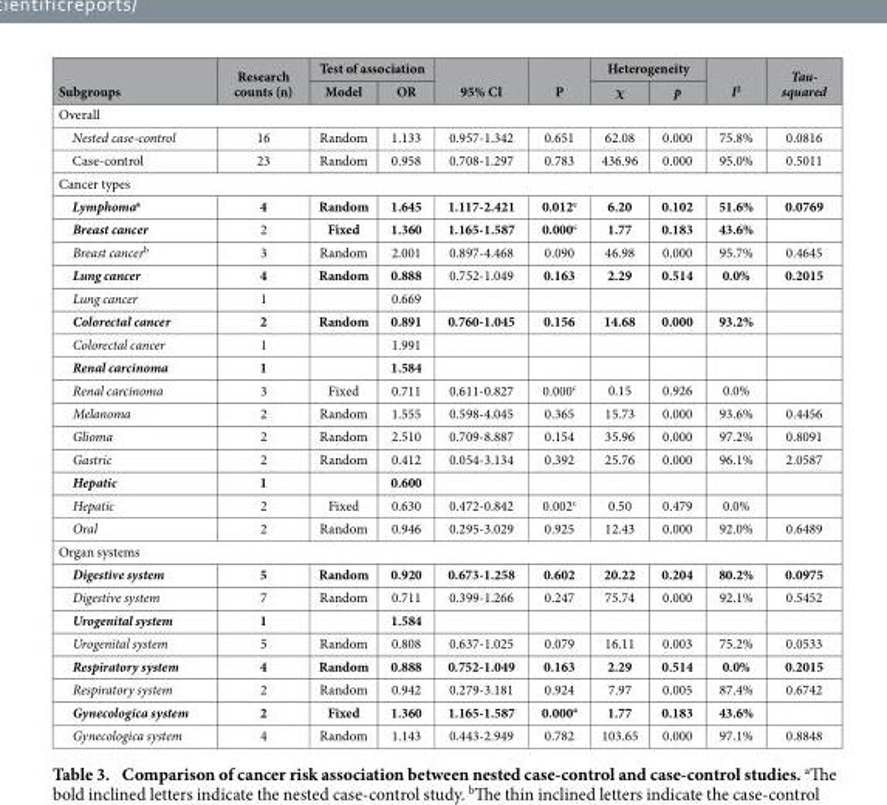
<table><thead><tr><td rowspan="2">Subgroups</td><td rowspan="2">Research counts (n)</td><td colspan="2">Test of association</td><td rowspan="2">95% CI</td><td rowspan="2">P</td><td colspan="2">Heterogeneity</td><td rowspan="2">I<sup>2</sup></td><td rowspan="2">Tau- squared</td></tr><tr><td>Model</td><td>OR</td><td>χ</td><td>p</td></tr></thead><tbody><tr><td colspan="10">Overall</td></tr><tr><td>Nested case-control</td><td>16</td><td>Random</td><td>1.133</td><td>0.957-1.342</td><td>0.651</td><td>62.08</td><td>0.000</td><td>75.8%</td><td>0.0816</td></tr><tr><td>Case-control</td><td>23</td><td>Random</td><td>0.958</td><td>0.708-1.297</td><td>0.783</td><td>436.96</td><td>0.000</td><td>95.0%</td><td>0.5011</td></tr><tr><td colspan="10">Cancer types</td></tr><tr><td>Lymphoma<sup>a</sup></td><td>4</td><td>Random</td><td>1.645</td><td>1.117-2.421</td><td>0.012<sup>c</sup></td><td>6.20</td><td>0.102</td><td>51.6%</td><td>0.0769</td></tr><tr><td>Breast cancer</td><td>2</td><td>Fixed</td><td>1.360</td><td>1.165-1.587</td><td>0.000<sup>c</sup></td><td>1.77</td><td>0.183</td><td>43.6%</td><td></td></tr><tr><td>Breast cancer<sup>b</sup></td><td>3</td><td>Random</td><td>2.001</td><td>0.897-4.468</td><td>0.090</td><td>46.98</td><td>0.000</td><td>95.7%</td><td>0.4645</td></tr><tr><td>Lung cancer</td><td>4</td><td>Random</td><td>0.888</td><td>0.752-1.049</td><td>0.163</td><td>2.29</td><td>0.514</td><td>0.0%</td><td>0.2015</td></tr><tr><td>Lung cancer</td><td>1</td><td></td><td>0.669</td><td></td><td></td><td></td><td></td><td></td><td></td></tr><tr><td>Colorectal cancer</td><td>2</td><td>Random</td><td>0.891</td><td>0.760-1.045</td><td>0.156</td><td>14.68</td><td>0.000</td><td>93.2%</td><td></td></tr><tr><td>Colorectal cancer</td><td>1</td><td></td><td>1.991</td><td></td><td></td><td></td><td></td><td></td><td></td></tr><tr><td>Renal carcinoma</td><td>1</td><td></td><td>1.584</td><td></td><td></td><td></td><td></td><td></td><td></td></tr><tr><td>Renal carcinoma</td><td>3</td><td>Fixed</td><td>0.711</td><td>0.611-0.827</td><td>0.000<sup>c</sup></td><td>0.15</td><td>0.926</td><td>0.0%</td><td></td></tr><tr><td>Melanoma</td><td>2</td><td>Random</td><td>1.555</td><td>0.598-4.045</td><td>0.365</td><td>15.73</td><td>0.000</td><td>93.6%</td><td>0.4456</td></tr><tr><td>Glioma</td><td>2</td><td>Random</td><td>2.510</td><td>0.709-8.887</td><td>0.154</td><td>35.96</td><td>0.000</td><td>97.2%</td><td>0.8091</td></tr><tr><td>Gastric</td><td>2</td><td>Random</td><td>0.412</td><td>0.054-3.134</td><td>0.392</td><td>25.76</td><td>0.000</td><td>96.1%</td><td>2.0587</td></tr><tr><td>Hepatic</td><td>1</td><td></td><td>0.600</td><td></td><td></td><td></td><td></td><td></td><td></td></tr><tr><td>Hepatic</td><td>2</td><td>Fixed</td><td>0.630</td><td>0.472-0.842</td><td>0.002<sup>c</sup></td><td>0.50</td><td>0.479</td><td>0.0%</td><td></td></tr><tr><td>Oral</td><td>2</td><td>Random</td><td>0.946</td><td>0.295-3.029</td><td>0.925</td><td>12.43</td><td>0.000</td><td>92.0%</td><td>0.6489</td></tr><tr><td colspan="10">Organ systems</td></tr><tr><td>Digestive system</td><td>5</td><td>Random</td><td>0.920</td><td>0.673-1.258</td><td>0.602</td><td>20.22</td><td>0.204</td><td>80.2%</td><td>0.0975</td></tr><tr><td>Digestive system</td><td>7</td><td>Random</td><td>0.711</td><td>0.399-1.266</td><td>0.247</td><td>75.74</td><td>0.000</td><td>92.1%</td><td>0.5452</td></tr><tr><td>Urogenital system</td><td>1</td><td></td><td>1.584</td><td></td><td></td><td></td><td></td><td></td><td></td></tr><tr><td>Urogenital system</td><td>5</td><td>Random</td><td>0.808</td><td>0.637-1.025</td><td>0.079</td><td>16.11</td><td>0.003</td><td>75.2%</td><td>0.0533</td></tr><tr><td>Respiratory system</td><td>4</td><td>Random</td><td>0.888</td><td>0.752-1.049</td><td>0.163</td><td>2.29</td><td>0.514</td><td>0.0%</td><td>0.2015</td></tr><tr><td>Respiratory system</td><td>2</td><td>Random</td><td>0.942</td><td>0.279-3.181</td><td>0.924</td><td>7.97</td><td>0.005</td><td>87.4%</td><td>0.6742</td></tr><tr><td>Gynecologica system</td><td>2</td><td>Fixed</td><td>1.360</td><td>1.165-1.587</td><td>0.000<sup>a</sup></td><td>1.77</td><td>0.183</td><td>43.6%</td><td></td></tr><tr><td>Gynecologica system</td><td>4</td><td>Random</td><td>1.143</td><td>0.443-2.949</td><td>0.782</td><td>103.65</td><td>0.000</td><td>97.1%</td><td>0.8848</td></tr></tbody></table>